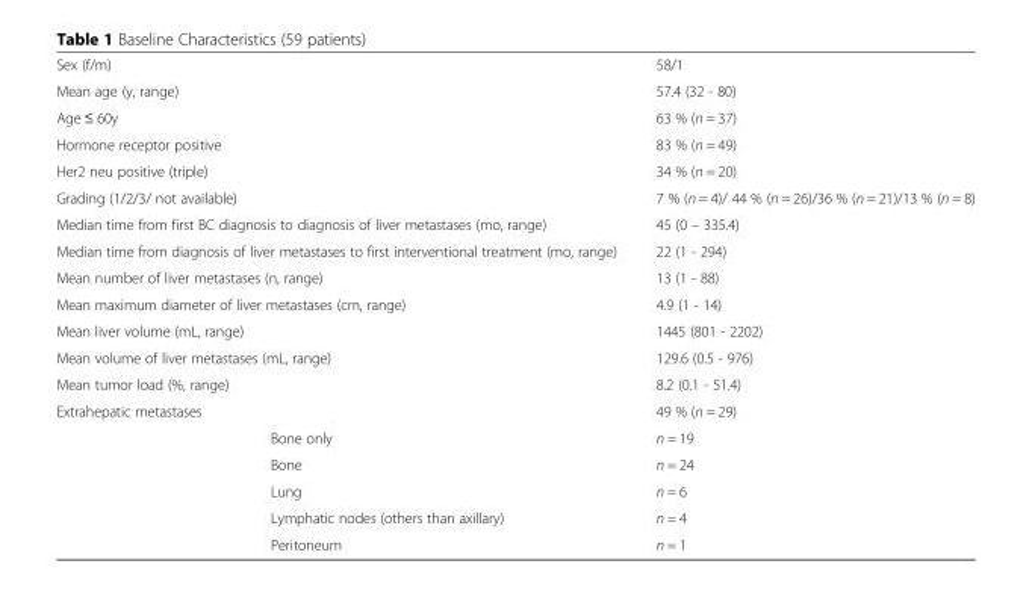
<table><tbody><tr><td>Sex (f/m)</td><td></td><td>58/1</td></tr><tr><td colspan="2">Mean age (y, range)</td><td>57.4 (32 - 80)</td></tr><tr><td>Age ≤ 60y</td><td></td><td>63 % (n = 37)</td></tr><tr><td colspan="2">Hormone receptor positive</td><td>83 % (n = 49)</td></tr><tr><td colspan="2">Her2 neu positive (triple)</td><td>34 % (n = 20)</td></tr><tr><td colspan="2">Grading (1/2/3/ not available)</td><td>7 % (n = 4)/ 44 % (n = 26)/36 % (n = 21)/13 % (n = 8)</td></tr><tr><td colspan="2">Median time from first BC diagnosis to diagnosis of liver metastases (mo, range)</td><td>45 (0 – 335.4)</td></tr><tr><td colspan="2">Median time from diagnosis of liver metastases to first interventional treatment (mo, range)</td><td>22 (1 - 294)</td></tr><tr><td colspan="2">Mean number of liver metastases (n, range)</td><td>13 (1 - 88)</td></tr><tr><td colspan="2">Mean maximum diameter of liver metastases (cm, range)</td><td>4.9 (1 - 14)</td></tr><tr><td colspan="2">Mean liver volume (mL, range)</td><td>1445 (801 - 2202)</td></tr><tr><td colspan="2">Mean volume of liver metastases (mL, range)</td><td>129.6 (0.5 - 976)</td></tr><tr><td colspan="2">Mean tumor load (%, range)</td><td>8.2 (0.1 - 51.4)</td></tr><tr><td colspan="2">Extrahepatic metastases</td><td>49 % (n = 29)</td></tr><tr><td></td><td>Bone only</td><td>n = 19</td></tr><tr><td></td><td>Bone</td><td>n = 24</td></tr><tr><td></td><td>Lung</td><td>n = 6</td></tr><tr><td></td><td>Lymphatic nodes (others than axillary)</td><td>n = 4</td></tr><tr><td></td><td>Peritoneum</td><td>n = 1</td></tr></tbody></table>